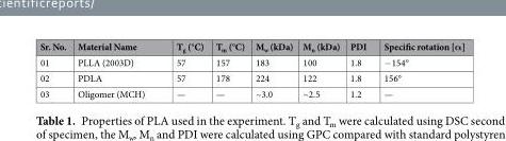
<table><thead><tr><td>Sr. No.</td><td>Material Name</td><td>T<sub>g</sub> (°C)</td><td>T<sub>m</sub> (°C)</td><td>M<sub>w</sub> (kDa)</td><td>M<sub>n</sub> (kDa)</td><td>PDI</td><td>Specific rotation [α]</td></tr></thead><tbody><tr><td>01</td><td>PLLA (2003D)</td><td>57</td><td>157</td><td>183</td><td>100</td><td>1.8</td><td>−154°</td></tr><tr><td>02</td><td>PDLA</td><td>57</td><td>178</td><td>224</td><td>122</td><td>1.8</td><td>156°</td></tr><tr><td>03</td><td>Oligomer (MCH)</td><td>—</td><td>—</td><td>~3.0</td><td>~2.5</td><td>1.2</td><td>—</td></tr></tbody></table>